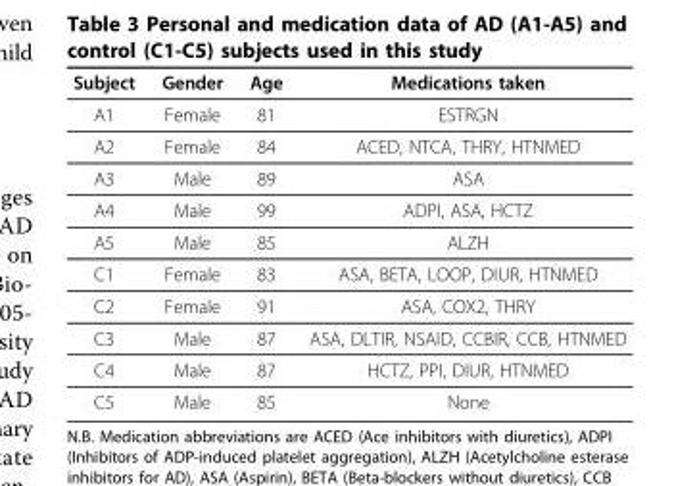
<table><thead><tr><td>Subject</td><td>Gender</td><td>Age</td><td>Medications taken</td></tr></thead><tbody><tr><td>A1</td><td>Female</td><td>81</td><td>ESTRGN</td></tr><tr><td>A2</td><td>Female</td><td>84</td><td>ACED, NTCA, THRY, HTNMED</td></tr><tr><td>A3</td><td>Male</td><td>89</td><td>ASA</td></tr><tr><td>A4</td><td>Male</td><td>99</td><td>ADPI, ASA, HCTZ</td></tr><tr><td>A5</td><td>Male</td><td>85</td><td>ALZH</td></tr><tr><td>C1</td><td>Female</td><td>83</td><td>ASA, BETA, LOOP, DIUR, HTNMED</td></tr><tr><td>C2</td><td>Female</td><td>91</td><td>ASA, COX2, THRY</td></tr><tr><td>C3</td><td>Male</td><td>87</td><td>ASA, DLTIR, NSAID, CCBIR, CCB, HTNMED</td></tr><tr><td>C4</td><td>Male</td><td>87</td><td>HCTZ, PPI, DIUR, HTNMED</td></tr><tr><td>C5</td><td>Male</td><td>85</td><td>None</td></tr></tbody></table>